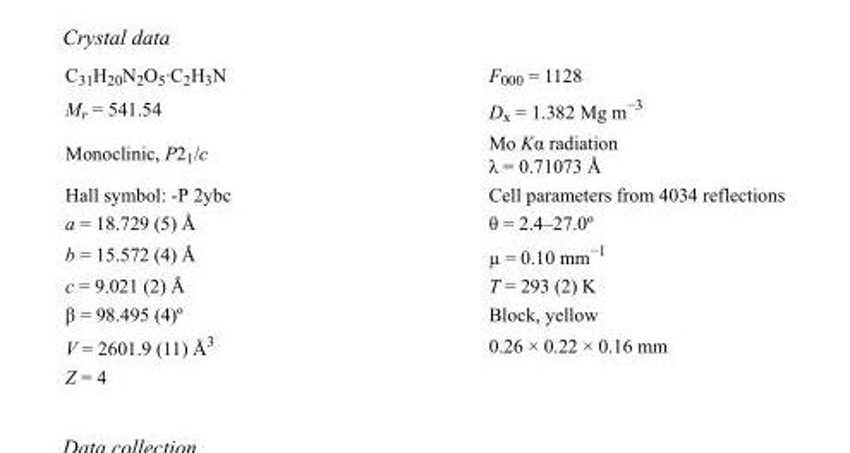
<table><tbody><tr><td>C<sub>31</sub>H<sub>20</sub>N<sub>2</sub>O<sub>5</sub>·C<sub>2</sub>H<sub>3</sub>N</td><td>F<sub>000</sub> = 1128</td></tr><tr><td>M<sub>r</sub> = 541.54</td><td>D<sub>x</sub> = 1.382 Mg m<sup>−3</sup></td></tr><tr><td>Monoclinic, P2<sub>1</sub>/c</td><td>Mo Kα radiation λ = 0.71073 Å</td></tr><tr><td>Hall symbol: -P 2ybc</td><td>Cell parameters from 4034 reflections</td></tr><tr><td>a = 18.729 (5) Å</td><td>θ = 2.4–27.0º</td></tr><tr><td>b = 15.572 (4) Å</td><td>µ = 0.10 mm<sup>−1</sup></td></tr><tr><td>c = 9.021 (2) Å</td><td>T = 293 (2) K</td></tr><tr><td>β = 98.495 (4)º</td><td>Block, yellow</td></tr><tr><td>V = 2601.9 (11) Å<sup>3</sup></td><td>0.26 × 0.22 × 0.16 mm</td></tr><tr><td>Z = 4</td><td></td></tr></tbody></table>